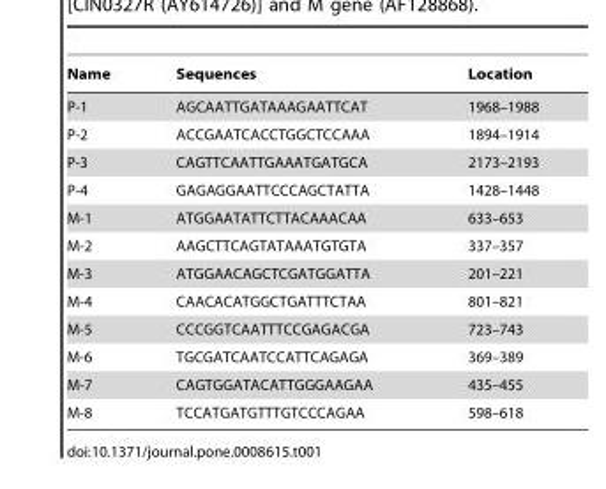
<table><thead><tr><td>Name</td><td>Sequences</td><td>Location</td></tr></thead><tbody><tr><td>P-1</td><td>AGCAATTGATAAAGAATTCAT</td><td>1968–1988</td></tr><tr><td>P-2</td><td>ACCGAATCACCTGGCTCCAAA</td><td>1894–1914</td></tr><tr><td>P-3</td><td>CAGTTCAATTGAAATGATGCA</td><td>2173–2193</td></tr><tr><td>P-4</td><td>GAGAGGAATTCCCAGCTATTA</td><td>1428–1448</td></tr><tr><td>M-1</td><td>ATGGAATATTCTTACAAACAA</td><td>633–653</td></tr><tr><td>M-2</td><td>AAGCTTCAGTATAAATGTGTA</td><td>337–357</td></tr><tr><td>M-3</td><td>ATGGAACAGCTCGATGGATTA</td><td>201–221</td></tr><tr><td>M-4</td><td>CAACACATGGCTGATTTCTAA</td><td>801–821</td></tr><tr><td>M-5</td><td>CCCGGTCAATTTCCGAGACGA</td><td>723–743</td></tr><tr><td>M-6</td><td>TGCGATCAATCCATTCAGAGA</td><td>369–389</td></tr><tr><td>M-7</td><td>CAGTGGATACATTGGGAAGAA</td><td>435–455</td></tr><tr><td>M-8</td><td>TCCATGATGTTTGTCCCAGAA</td><td>598–618</td></tr></tbody></table>